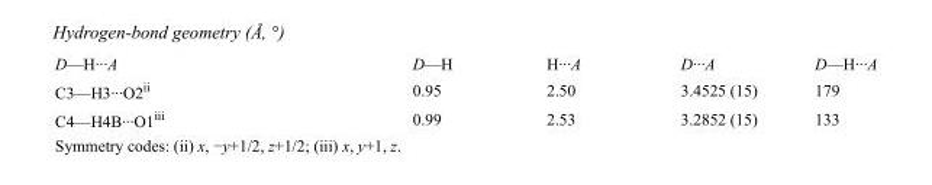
<table><tbody><tr><td>D—H···A</td><td>D—H</td><td>H···A</td><td>D···A</td><td>D—H···A</td></tr><tr><td>C3—H3···O2<sup>ii</sup></td><td>0.95</td><td>2.50</td><td>3.4525 (15)</td><td>179</td></tr><tr><td>C4—H4B···O1<sup>iii</sup></td><td>0.99</td><td>2.53</td><td>3.2852 (15)</td><td>133</td></tr></tbody></table>